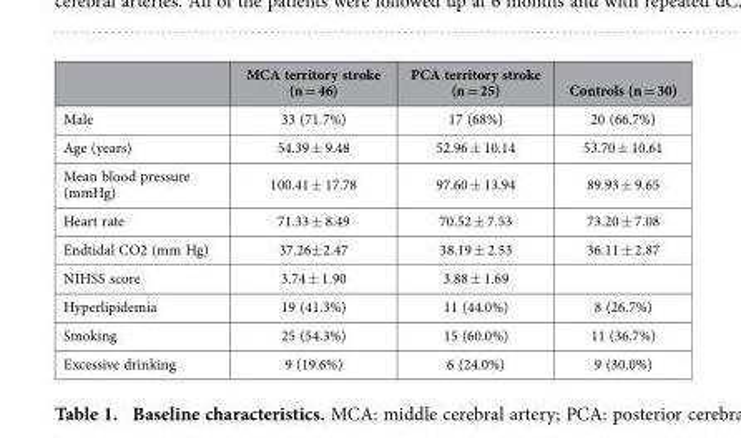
<table><thead><tr><td></td><td>MCA territory stroke (n = 46)</td><td>PCA territory stroke (n = 25)</td><td>Controls (n = 30)</td></tr></thead><tbody><tr><td>Male</td><td>33 (71.7%)</td><td>17 (68%)</td><td>20 (66.7%)</td></tr><tr><td>Age (years)</td><td>54.39 ± 9.48</td><td>52.96 ± 10.14</td><td>53.70 ± 10.61</td></tr><tr><td>Mean blood pressure (mmHg)</td><td>100.41 ± 17.78</td><td>97.60 ± 13.94</td><td>89.93 ± 9.65</td></tr><tr><td>Heart rate</td><td>71.33 ± 8.49</td><td>70.52 ± 7.53</td><td>73.20 ± 7.08</td></tr><tr><td>Endtidal CO2 (mm Hg)</td><td>37.26± 2.47</td><td>38.19 ± 2.53</td><td>36.11 ± 2.87</td></tr><tr><td>NIHSS score</td><td>3.74 ± 1.90</td><td>3.88 ± 1.69</td><td></td></tr><tr><td>Hyperlipidemia</td><td>19 (41.3%)</td><td>11 (44.0%)</td><td>8 (26.7%)</td></tr><tr><td>Smoking</td><td>25 (54.3%)</td><td>15 (60.0%)</td><td>11 (36.7%)</td></tr><tr><td>Excessive drinking</td><td>9 (19.6%)</td><td>6 (24.0%)</td><td>9 (30.0%)</td></tr></tbody></table>